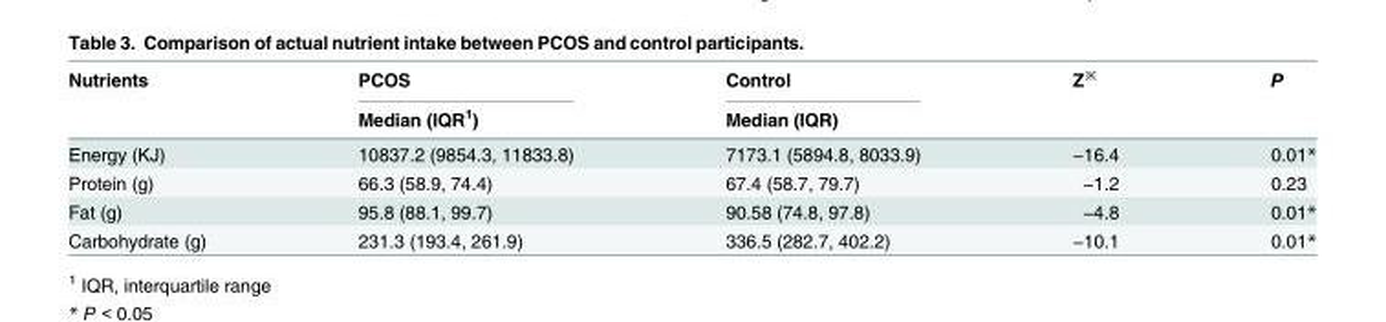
<table><thead><tr><td rowspan="2">Nutrients</td><td rowspan="2">PCOS Median (IQR<sup>1</sup>)</td><td rowspan="2">Control Median (IQR)</td><td rowspan="2">Z<sup>※</sup></td><td rowspan="2">P</td></tr><tr></tr></thead><tbody><tr><td>Energy (KJ)</td><td>10837.2 (9854.3, 11833.8)</td><td>7173.1 (5894.8, 8033.9)</td><td>−16.4</td><td>0.01*</td></tr><tr><td>Protein (g)</td><td>66.3 (58.9, 74.4)</td><td>67.4 (58.7, 79.7)</td><td>−1.2</td><td>0.23</td></tr><tr><td>Fat (g)</td><td>95.8 (88.1, 99.7)</td><td>90.58 (74.8, 97.8)</td><td>−4.8</td><td>0.01*</td></tr><tr><td>Carbohydrate (g)</td><td>231.3 (193.4, 261.9)</td><td>336.5 (282.7, 402.2)</td><td>−10.1</td><td>0.01*</td></tr></tbody></table>